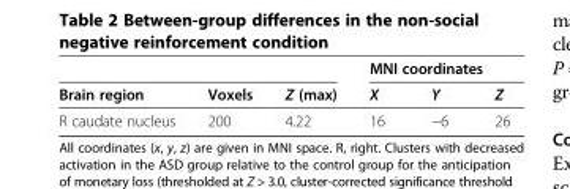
<table><thead><tr><td rowspan="2">Brain region</td><td rowspan="2">Voxels</td><td rowspan="2">Z (max)</td><td colspan="3">MNI coordinates</td></tr><tr><td>X</td><td>Y</td><td>Z</td></tr></thead><tbody><tr><td>R caudate nucleus</td><td>200</td><td>4.22</td><td>16</td><td>−6</td><td>26</td></tr></tbody></table>